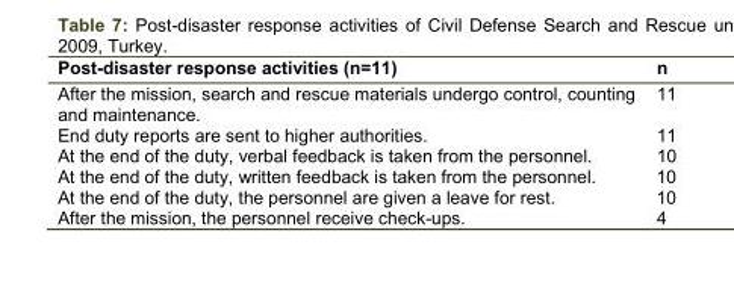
<table><thead><tr><td>Post-disaster response activities (n=11)</td><td>n</td></tr></thead><tbody><tr><td>After the mission, search and rescue materials undergo control, counting and maintenance.</td><td>11</td></tr><tr><td>End duty reports are sent to higher authorities.</td><td>11</td></tr><tr><td>At the end of the duty, verbal feedback is taken from the personnel.</td><td>10</td></tr><tr><td>At the end of the duty, written feedback is taken from the personnel.</td><td>10</td></tr><tr><td>At the end of the duty, the personnel are given a leave for rest.</td><td>10</td></tr><tr><td>After the mission, the personnel receive check-ups.</td><td>4</td></tr></tbody></table>